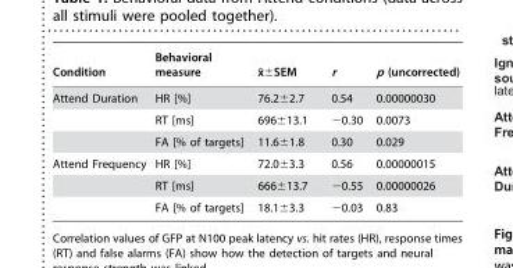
<table><thead><tr><td>Condition</td><td>Behavioral measure</td><td>x¯6SEM</td><td>r</td><td>p (uncorrected)</td></tr></thead><tbody><tr><td rowspan="3">Attend Duration</td><td>HR [%]</td><td>76.2±2.7</td><td>0.54</td><td>0.00000030</td></tr><tr><td>RT [ms]</td><td>696±13.1</td><td>−0.30</td><td>0.0073</td></tr><tr><td>FA [% of targets]</td><td>11.6±1.8</td><td>0.30</td><td>0.029</td></tr><tr><td rowspan="3">Attend Frequency</td><td>HR [%]</td><td>72.0±3.3</td><td>0.56</td><td>0.00000015</td></tr><tr><td>RT [ms]</td><td>666±13.7</td><td>−0.55</td><td>0.00000026</td></tr><tr><td>FA [% of targets]</td><td>18.1±3.3</td><td>−0.03</td><td>0.83</td></tr></tbody></table>